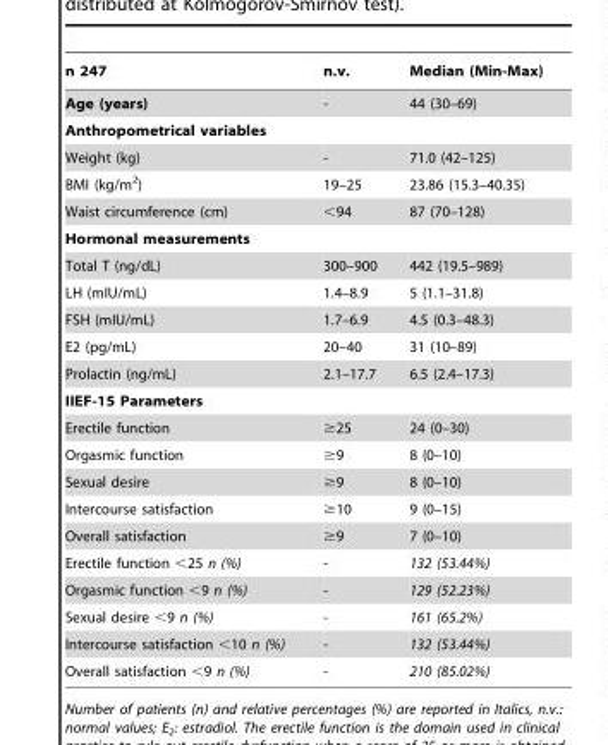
<table><thead><tr><td>n 247</td><td>n.v.</td><td>Median (Min-Max)</td></tr></thead><tbody><tr><td>Age (years)</td><td>-</td><td>44 (30–69)</td></tr><tr><td colspan="3">Anthropometrical variables</td></tr><tr><td>Weight (kg)</td><td>-</td><td>71.0 (42–125)</td></tr><tr><td>BMI (kg/m<sup>2</sup>)</td><td>19–25</td><td>23.86 (15.3–40.35)</td></tr><tr><td>Waist circumference (cm)</td><td>&lt;94</td><td>87 (70–128)</td></tr><tr><td colspan="3">Hormonal measurements</td></tr><tr><td>Total T (ng/dL)</td><td>300–900</td><td>442 (19.5–989)</td></tr><tr><td>LH (mIU/mL)</td><td>1.4–8.9</td><td>5 (1.1–31.8)</td></tr><tr><td>FSH (mIU/mL)</td><td>1.7–6.9</td><td>4.5 (0.3–48.3)</td></tr><tr><td>E2 (pg/mL)</td><td>20–40</td><td>31 (10–89)</td></tr><tr><td>Prolactin (ng/mL)</td><td>2.1–17.7</td><td>6.5 (2.4–17.3)</td></tr><tr><td colspan="3">IIEF-15 Parameters</td></tr><tr><td>Erectile function</td><td>≥25</td><td>24 (0–30)</td></tr><tr><td>Orgasmic function</td><td>≥9</td><td>8 (0–10)</td></tr><tr><td>Sexual desire</td><td>≥9</td><td>8 (0–10)</td></tr><tr><td>Intercourse satisfaction</td><td>≥10</td><td>9 (0–15)</td></tr><tr><td>Overall satisfaction</td><td>≥9</td><td>7 (0–10)</td></tr><tr><td>Erectile function &lt;25 n (%)</td><td>-</td><td>132 (53.44%)</td></tr><tr><td>Orgasmic function &lt;9 n (%)</td><td>-</td><td>129 (52.23%)</td></tr><tr><td>Sexual desire &lt;9 n (%)</td><td>-</td><td>161 (65.2%)</td></tr><tr><td>Intercourse satisfaction &lt;10 n (%)</td><td>-</td><td>132 (53.44%)</td></tr><tr><td>Overall satisfaction &lt;9 n (%)</td><td>-</td><td>210 (85.02%)</td></tr></tbody></table>